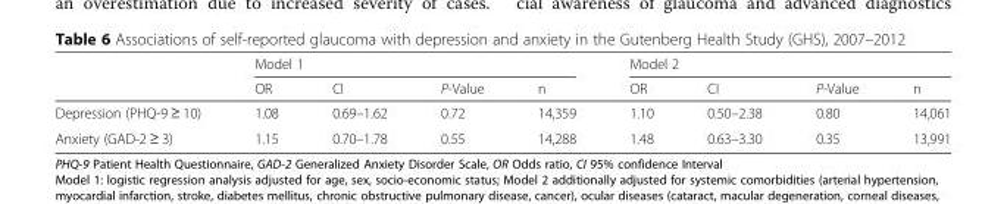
<table><thead><tr><td rowspan="2"></td><td colspan="4">Model 1</td><td colspan="4">Model 2</td></tr><tr><td>OR</td><td>CI</td><td>P-Value</td><td>n</td><td>OR</td><td>CI</td><td>P-Value</td><td>n</td></tr></thead><tbody><tr><td>Depression (PHQ-9 ≥ 10)</td><td>1.08</td><td>0.69–1.62</td><td>0.72</td><td>14,359</td><td>1.10</td><td>0.50–2.38</td><td>0.80</td><td>14,061</td></tr><tr><td>Anxiety (GAD-2 ≥ 3)</td><td>1.15</td><td>0.70–1.78</td><td>0.55</td><td>14,288</td><td>1.48</td><td>0.63–3.30</td><td>0.35</td><td>13,991</td></tr></tbody></table>